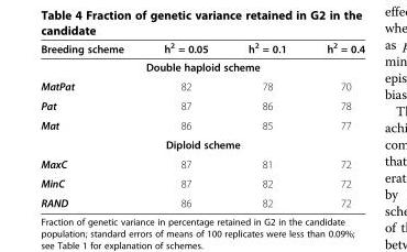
<table><thead><tr><td>Breeding scheme</td><td>h<sup>2</sup> = 0.05</td><td>h<sup>2</sup> = 0.1</td><td>h<sup>2</sup> = 0.4</td></tr></thead><tbody><tr><td colspan="4">Double haploid scheme</td></tr><tr><td>MatPat</td><td>82</td><td>78</td><td>70</td></tr><tr><td>Pat</td><td>87</td><td>86</td><td>78</td></tr><tr><td>Mat</td><td>86</td><td>85</td><td>77</td></tr><tr><td colspan="4">Diploid scheme</td></tr><tr><td>MaxC</td><td>87</td><td>81</td><td>72</td></tr><tr><td>MinC</td><td>87</td><td>82</td><td>72</td></tr><tr><td>RAND</td><td>86</td><td>82</td><td>72</td></tr></tbody></table>